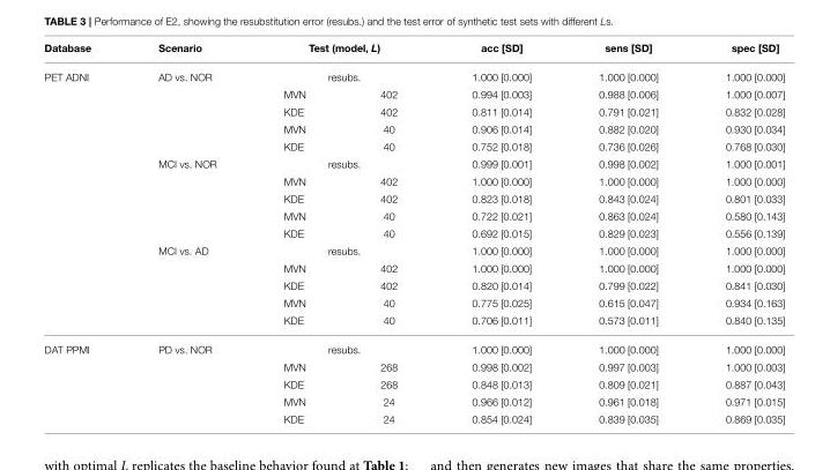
<table><thead><tr><td rowspan="3">Database PET ADNI</td><td rowspan="3">Scenario AD vs. NOR</td><td rowspan="2" colspan="2">Test (model, L) resubs.</td><td rowspan="3">acc [SD] 1.000 [0.000] 0.994 [0.003]</td><td rowspan="3">sens [SD] 1.000 [0.000] 0.988 [0.006]</td><td rowspan="3">spec [SD] 1.000 [0.000] 1.000 [0.007]</td></tr><tr></tr><tr><td>MVN</td><td>402</td></tr></thead><tbody><tr><td></td><td></td><td>KDE</td><td>402</td><td>0.811 [0.014]</td><td>0.791 [0.021]</td><td>0.832 [0.028]</td></tr><tr><td></td><td></td><td>MVN</td><td>40</td><td>0.906 [0.014]</td><td>0.882 [0.020]</td><td>0.930 [0.034]</td></tr><tr><td></td><td></td><td>KDE</td><td>40</td><td>0.752 [0.018]</td><td>0.736 [0.026]</td><td>0.768 [0.030]</td></tr><tr><td></td><td>MCI vs. NOR</td><td colspan="2">resubs.</td><td>0.999 [0.001]</td><td>0.998 [0.002]</td><td>1.000 [0.001]</td></tr><tr><td></td><td></td><td>MVN</td><td>402</td><td>1.000 [0.000]</td><td>1.000 [0.000]</td><td>1.000 [0.000]</td></tr><tr><td></td><td></td><td>KDE</td><td>402</td><td>0.823 [0.018]</td><td>0.843 [0.024]</td><td>0.801 [0.033]</td></tr><tr><td></td><td></td><td>MVN</td><td>40</td><td>0.722 [0.021]</td><td>0.863 [0.024]</td><td>0.580 [0.143]</td></tr><tr><td></td><td></td><td>KDE</td><td>40</td><td>0.692 [0.015]</td><td>0.829 [0.023]</td><td>0.556 [0.139]</td></tr><tr><td></td><td>MCI vs. AD</td><td colspan="2">resubs.</td><td>1.000 [0.000]</td><td>1.000 [0.000]</td><td>1.000 [0.000]</td></tr><tr><td></td><td></td><td>MVN</td><td>402</td><td>1.000 [0.000]</td><td>1.000 [0.000]</td><td>1.000 [0.000]</td></tr><tr><td></td><td></td><td>KDE</td><td>402</td><td>0.820 [0.014]</td><td>0.799 [0.022]</td><td>0.841 [0.030]</td></tr><tr><td></td><td></td><td>MVN</td><td>40</td><td>0.775 [0.025]</td><td>0.615 [0.047]</td><td>0.934 [0.163]</td></tr><tr><td></td><td></td><td>KDE</td><td>40</td><td>0.706 [0.011]</td><td>0.573 [0.011]</td><td>0.840 [0.135]</td></tr><tr><td rowspan="5">DAT PPMI</td><td>PD vs. NOR</td><td colspan="2">resubs.</td><td>1.000 [0.000]</td><td>1.000 [0.000]</td><td>1.000 [0.000]</td></tr><tr><td></td><td>MVN</td><td>268</td><td>0.998 [0.002]</td><td>0.997 [0.003]</td><td>1.000 [0.003]</td></tr><tr><td></td><td>KDE</td><td>268</td><td>0.848 [0.013]</td><td>0.809 [0.021]</td><td>0.887 [0.043]</td></tr><tr><td></td><td>MVN</td><td>24</td><td>0.966 [0.012]</td><td>0.961 [0.018]</td><td>0.971 [0.015]</td></tr><tr><td></td><td>KDE</td><td>24</td><td>0.854 [0.024]</td><td>0.839 [0.035]</td><td>0.869 [0.035]</td></tr></tbody></table>